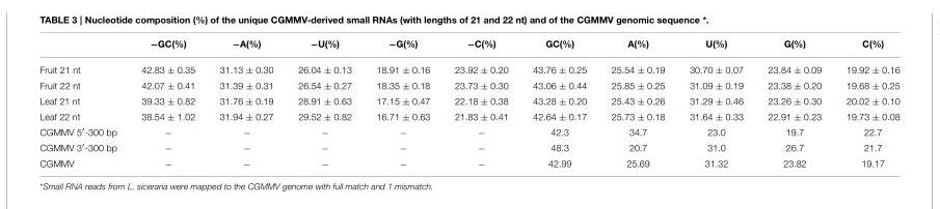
<table><thead><tr><td></td><td>−GC(%)</td><td>−A(%)</td><td>−U(%)</td><td>−G(%)</td><td>−C(%)</td><td>GC(%)</td><td>A(%)</td><td>U(%)</td><td>G(%)</td><td>C(%)</td></tr></thead><tbody><tr><td>Fruit 21 nt</td><td>42.83 ± 0.35</td><td>31.13 ± 0.30</td><td>26.04 ± 0.13</td><td>18.91 ± 0.16</td><td>23.92 ± 0.20</td><td>43.76 ± 0.25</td><td>25.54 ± 0.19</td><td>30.70 ± 0.07</td><td>23.84 ± 0.09</td><td>19.92 ± 0.16</td></tr><tr><td>Fruit 22 nt</td><td>42.07 ± 0.41</td><td>31.39 ± 0.31</td><td>26.54 ± 0.27</td><td>18.35 ± 0.18</td><td>23.73 ± 0.30</td><td>43.06 ± 0.44</td><td>25.85 ± 0.25</td><td>31.09 ± 0.19</td><td>23.38 ± 0.20</td><td>19.68 ± 0.25</td></tr><tr><td>Leaf 21 nt</td><td>39.33 ± 0.82</td><td>31.76 ± 0.19</td><td>28.91 ± 0.63</td><td>17.15 ± 0.47</td><td>22.18 ± 0.38</td><td>43.28 ± 0.20</td><td>25.43 ± 0.26</td><td>31.29 ± 0.46</td><td>23.26 ± 0.30</td><td>20.02 ± 0.10</td></tr><tr><td>Leaf 22 nt</td><td>38.54 ± 1.02</td><td>31.94 ± 0.27</td><td>29.52 ± 0.82</td><td>16.71 ± 0.63</td><td>21.83 ± 0.41</td><td>42.64 ± 0.17</td><td>25.73 ± 0.18</td><td>31.64 ± 0.33</td><td>22.91 ± 0.23</td><td>19.73 ± 0.08</td></tr><tr><td>CGMMV 5′-300 bp</td><td>−</td><td>−</td><td>−</td><td>−</td><td>−</td><td>42.3</td><td>34.7</td><td>23.0</td><td>19.7</td><td>22.7</td></tr><tr><td>CGMMV 3′-300 bp</td><td>−</td><td>−</td><td>−</td><td>−</td><td>−</td><td>48.3</td><td>20.7</td><td>31.0</td><td>26.7</td><td>21.7</td></tr><tr><td>CGMMV</td><td>−</td><td>−</td><td>−</td><td>−</td><td>−</td><td>42.99</td><td>25.69</td><td>31.32</td><td>23.82</td><td>19.17</td></tr></tbody></table>